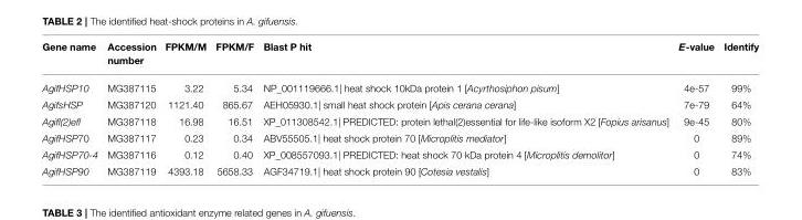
<table><thead><tr><td>Gene name</td><td>Accession number</td><td>FPKM/M</td><td>FPKM/F</td><td>Blast P hit</td><td>E-value</td><td>Identify</td></tr></thead><tbody><tr><td>AgifHSP10</td><td>MG387115</td><td>3.22</td><td>5.34</td><td>NP_001119666.1| heat shock 10kDa protein 1 [Acyrthosiphon pisum]</td><td>4e-57</td><td>99%</td></tr><tr><td>AgifsHSP</td><td>MG387120</td><td>1121.40</td><td>865.67</td><td>AEH05930.1| small heat shock protein [Apis cerana cerana]</td><td>7e-79</td><td>64%</td></tr><tr><td>Agifl(2)efl</td><td>MG387118</td><td>16.98</td><td>16.51</td><td>XP_011308542.1| PREDICTED: protein lethal(2)essential for life-like isoform X2 [Fopius arisanus]</td><td>9e-45</td><td>80%</td></tr><tr><td>AgifHSP70</td><td>MG387117</td><td>0.23</td><td>0.34</td><td>ABV55505.1| heat shock protein 70 [Microplitis mediator]</td><td>0</td><td>89%</td></tr><tr><td>AgifHSP70-4</td><td>MG387116</td><td>0.12</td><td>0.40</td><td>XP_008557093.1| PREDICTED: heat shock 70 kDa protein 4 [Microplitis demolitor]</td><td>0</td><td>74%</td></tr><tr><td>AgifHSP90</td><td>MG387119</td><td>4393.18</td><td>5658.33</td><td>AGF34719.1| heat shock protein 90 [Cotesia vestalis]</td><td>0</td><td>83%</td></tr></tbody></table>